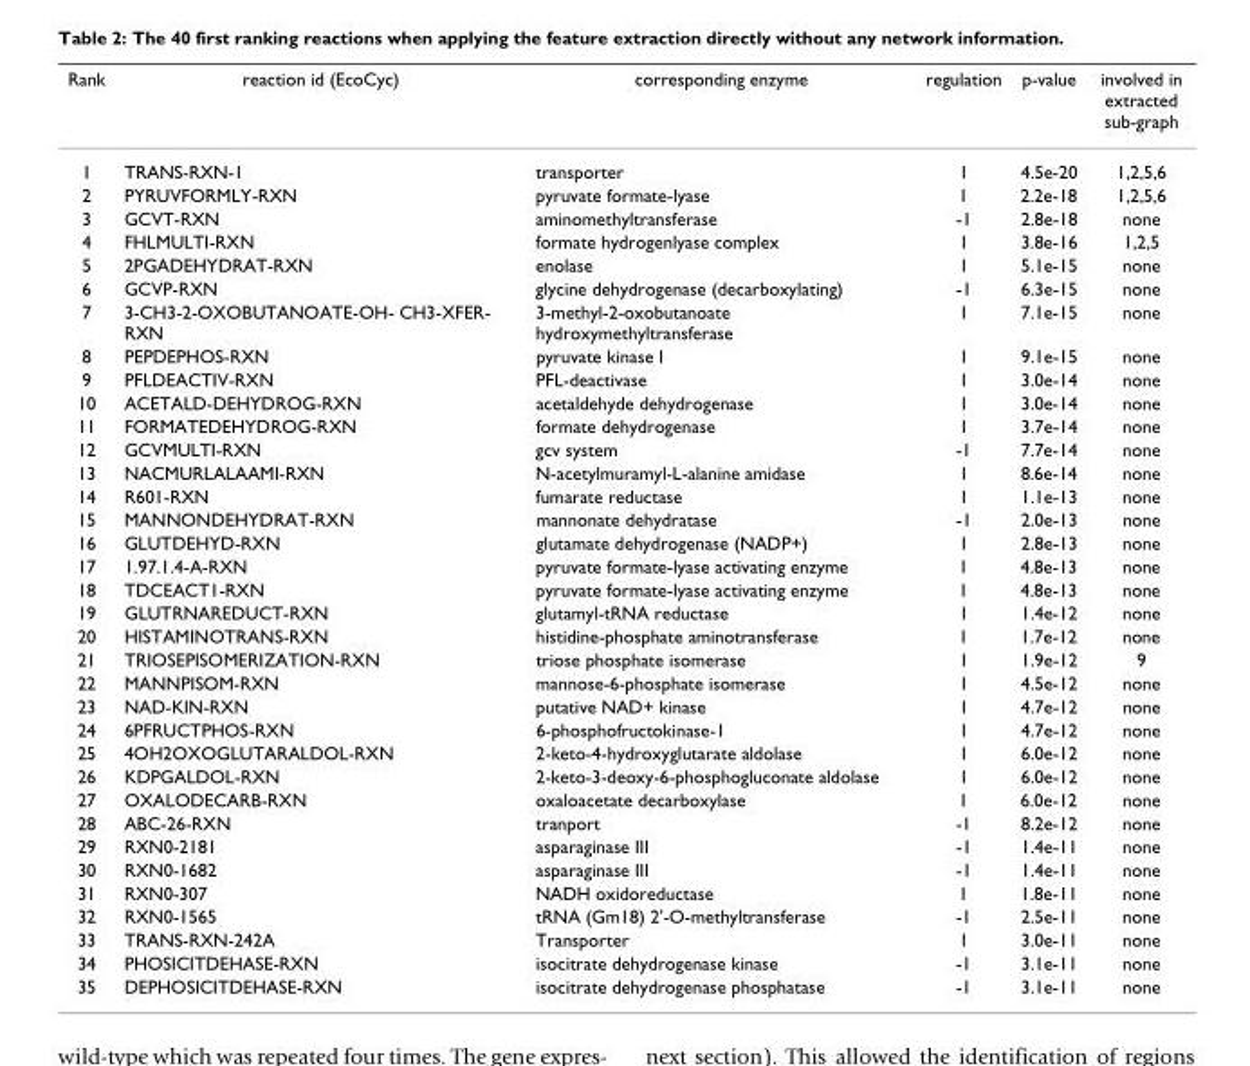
<table><thead><tr><td>Rank</td><td>reaction id (EcoCyc)</td><td>corresponding enzyme</td><td>regulation</td><td>p-value</td><td>involved in extracted sub-graph</td></tr></thead><tbody><tr><td>1</td><td>TRANS-RXN-1</td><td>transporter</td><td>1</td><td>4.5e-20</td><td>1,2,5,6</td></tr><tr><td>2</td><td>PYRUVFORMLY-RXN</td><td>pyruvate formate-lyase</td><td>1</td><td>2.2e-18</td><td>1,2,5,6</td></tr><tr><td>3</td><td>GCVT-RXN</td><td>aminomethyltransferase</td><td>-1</td><td>2.8e-18</td><td>none</td></tr><tr><td>4</td><td>FHLMULTI-RXN</td><td>formate hydrogenlyase complex</td><td>1</td><td>3.8e-16</td><td>1,2,5</td></tr><tr><td>5</td><td>2PGADEHYDRAT-RXN</td><td>enolase</td><td>1</td><td>5.1e-15</td><td>none</td></tr><tr><td>6</td><td>GCVP-RXN</td><td>glycine dehydrogenase (decarboxylating)</td><td>-1</td><td>6.3e-15</td><td>none</td></tr><tr><td>7</td><td>3-CH3-2-OXOBUTANOATE-OH- CH3-XFER- RXN</td><td>3-methyl-2-oxobutanoate hydroxymethyltransferase</td><td>1</td><td>7.1e-15</td><td>none</td></tr><tr><td>8</td><td>PEPDEPHOS-RXN</td><td>pyruvate kinase I</td><td>1</td><td>9.1e-15</td><td>none</td></tr><tr><td>9</td><td>PFLDEACTIV-RXN</td><td>PFL-deactivase</td><td>1</td><td>3.0e-14</td><td>none</td></tr><tr><td>10</td><td>ACETALD-DEHYDROG-RXN</td><td>acetaldehyde dehydrogenase</td><td>1</td><td>3.0e-14</td><td>none</td></tr><tr><td>11</td><td>FORMATEDEHYDROG-RXN</td><td>formate dehydrogenase</td><td>1</td><td>3.7e-14</td><td>none</td></tr><tr><td>12</td><td>GCVMULTI-RXN</td><td>gcv system</td><td>-1</td><td>7.7e-14</td><td>none</td></tr><tr><td>13</td><td>NACMURLALAAMI-RXN</td><td>N-acetylmuramyl-L-alanine amidase</td><td>1</td><td>8.6e-14</td><td>none</td></tr><tr><td>14</td><td>R601-RXN</td><td>fumarate reductase</td><td>1</td><td>1.1e-13</td><td>none</td></tr><tr><td>15</td><td>MANNONDEHYDRAT-RXN</td><td>mannonate dehydratase</td><td>-1</td><td>2.0e-13</td><td>none</td></tr><tr><td>16</td><td>GLUTDEHYD-RXN</td><td>glutamate dehydrogenase (NADP+)</td><td>1</td><td>2.8e-13</td><td>none</td></tr><tr><td>17</td><td>1.97.1.4-A-RXN</td><td>pyruvate formate-lyase activating enzyme</td><td>1</td><td>4.8e-13</td><td>none</td></tr><tr><td>18</td><td>TDCEACT1-RXN</td><td>pyruvate formate-lyase activating enzyme</td><td>1</td><td>4.8e-13</td><td>none</td></tr><tr><td>19</td><td>GLUTRNAREDUCT-RXN</td><td>glutamyl-tRNA reductase</td><td>1</td><td>1.4e-12</td><td>none</td></tr><tr><td>20</td><td>HISTAMINOTRANS-RXN</td><td>histidine-phosphate aminotransferase</td><td>1</td><td>1.7e-12</td><td>none</td></tr><tr><td>21</td><td>TRIOSEPISOMERIZATION-RXN</td><td>triose phosphate isomerase</td><td>1</td><td>1.9e-12</td><td>9</td></tr><tr><td>22</td><td>MANNPISOM-RXN</td><td>mannose-6-phosphate isomerase</td><td>1</td><td>4.5e-12</td><td>none</td></tr><tr><td>23</td><td>NAD-KIN-RXN</td><td>putative NAD+ kinase</td><td>1</td><td>4.7e-12</td><td>none</td></tr><tr><td>24</td><td>6PFRUCTPHOS-RXN</td><td>6-phosphofructokinase-1</td><td>1</td><td>4.7e-12</td><td>none</td></tr><tr><td>25</td><td>4OH2OXOGLUTARALDOL-RXN</td><td>2-keto-4-hydroxyglutarate aldolase</td><td>1</td><td>6.0e-12</td><td>none</td></tr><tr><td>26</td><td>KDPGALDOL-RXN</td><td>2-keto-3-deoxy-6-phosphogluconate aldolase</td><td>1</td><td>6.0e-12</td><td>none</td></tr><tr><td>27</td><td>OXALODECARB-RXN</td><td>oxaloacetate decarboxylase</td><td>1</td><td>6.0e-12</td><td>none</td></tr><tr><td>28</td><td>ABC-26-RXN</td><td>tranport</td><td>-1</td><td>8.2e-12</td><td>none</td></tr><tr><td>29</td><td>RXN0-2181</td><td>asparaginase III</td><td>-1</td><td>1.4e-11</td><td>none</td></tr><tr><td>30</td><td>RXN0-1682</td><td>asparaginase III</td><td>-1</td><td>1.4e-11</td><td>none</td></tr><tr><td>31</td><td>RXN0-307</td><td>NADH oxidoreductase</td><td>1</td><td>1.8e-11</td><td>none</td></tr><tr><td>32</td><td>RXN0-1565</td><td>tRNA (Gm18) 2&#x27;-O-methyltransferase</td><td>-1</td><td>2.5e-11</td><td>none</td></tr><tr><td>33</td><td>TRANS-RXN-242A</td><td>Transporter</td><td>1</td><td>3.0e-11</td><td>none</td></tr><tr><td>34</td><td>PHOSICITDEHASE-RXN</td><td>isocitrate dehydrogenase kinase</td><td>-1</td><td>3.1e-11</td><td>none</td></tr><tr><td>35</td><td>DEPHOSICITDEHASE-RXN</td><td>isocitrate dehydrogenase phosphatase</td><td>-1</td><td>3.1e-11</td><td>none</td></tr></tbody></table>